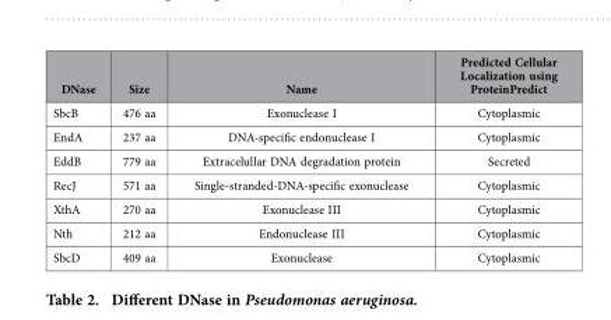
<table><thead><tr><td>DNase</td><td>Size</td><td>Name</td><td>Predicted Cellular Localization using ProteinPredict</td></tr></thead><tbody><tr><td>SbcB</td><td>476 aa</td><td>Exonuclease I</td><td>Cytoplasmic</td></tr><tr><td>EndA</td><td>237 aa</td><td>DNA-specific endonuclease I</td><td>Cytoplasmic</td></tr><tr><td>EddB</td><td>779 aa</td><td>Extracelullar DNA degradation protein</td><td>Secreted</td></tr><tr><td>RecJ</td><td>571 aa</td><td>Single-stranded-DNA-specific exonuclease</td><td>Cytoplasmic</td></tr><tr><td>XthA</td><td>270 aa</td><td>Exonuclease III</td><td>Cytoplasmic</td></tr><tr><td>Nth</td><td>212 aa</td><td>Endonuclease III</td><td>Cytoplasmic</td></tr><tr><td>SbcD</td><td>409 aa</td><td>Exonuclease</td><td>Cytoplasmic</td></tr></tbody></table>